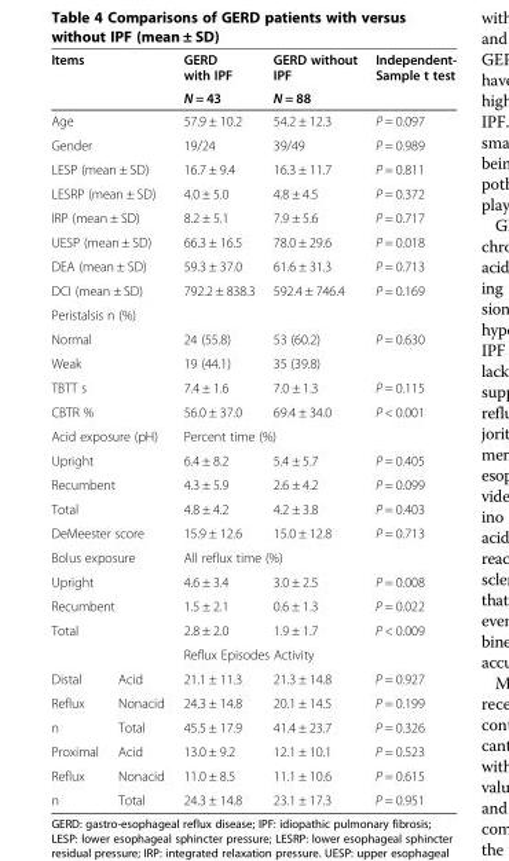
<table><thead><tr><td rowspan="2" colspan="2">Items</td><td rowspan="2">GERD with IPF N = 43</td><td rowspan="2">GERD without IPF N = 88</td><td rowspan="2">Independent- Sample t test</td></tr><tr></tr></thead><tbody><tr><td colspan="2">Age</td><td>57.9 ± 10.2</td><td>54.2 ± 12.3</td><td>P = 0.097</td></tr><tr><td colspan="2">Gender</td><td>19/24</td><td>39/49</td><td>P = 0.989</td></tr><tr><td colspan="2">LESP (mean ± SD)</td><td>16.7 ± 9.4</td><td>16.3 ± 11.7</td><td>P = 0.811</td></tr><tr><td colspan="2">LESRP (mean ± SD)</td><td>4.0 ± 5.0</td><td>4.8 ± 4.5</td><td>P = 0.372</td></tr><tr><td colspan="2">IRP (mean ± SD)</td><td>8.2 ± 5.1</td><td>7.9 ± 5.6</td><td>P = 0.717</td></tr><tr><td colspan="2">UESP (mean ± SD)</td><td>66.3 ± 16.5</td><td>78.0 ± 29.6</td><td>P = 0.018</td></tr><tr><td colspan="2">DEA (mean ± SD)</td><td>59.3 ± 37.0</td><td>61.6 ± 31.3</td><td>P = 0.713</td></tr><tr><td colspan="2">DCI (mean ± SD)</td><td>792.2 ± 838.3</td><td>592.4 ± 746.4</td><td>P = 0.169</td></tr><tr><td colspan="5">Peristalsis n (%)</td></tr><tr><td colspan="2">Normal</td><td>24 (55.8)</td><td>53 (60.2)</td><td>P = 0.630</td></tr><tr><td colspan="2">Weak</td><td>19 (44.1)</td><td>35 (39.8)</td><td></td></tr><tr><td colspan="2">TBTT s</td><td>7.4 ± 1.6</td><td>7.0 ± 1.3</td><td>P = 0.115</td></tr><tr><td colspan="2">CBTR %</td><td>56.0 ± 37.0</td><td>69.4 ± 34.0</td><td>P &lt; 0.001</td></tr><tr><td colspan="2">Acid exposure (pH)</td><td colspan="2">Percent time (%)</td><td></td></tr><tr><td colspan="2">Upright</td><td>6.4 ± 8.2</td><td>5.4 ± 5.7</td><td>P = 0.405</td></tr><tr><td colspan="2">Recumbent</td><td>4.3 ± 5.9</td><td>2.6 ± 4.2</td><td>P = 0.099</td></tr><tr><td colspan="2">Total</td><td>4.8 ± 4.2</td><td>4.2 ± 3.8</td><td>P = 0.403</td></tr><tr><td colspan="2">DeMeester score</td><td>15.9 ± 12.6</td><td>15.0 ± 12.8</td><td>P = 0.713</td></tr><tr><td colspan="2">Bolus exposure</td><td colspan="2">All reflux time (%)</td><td></td></tr><tr><td colspan="2">Upright</td><td>4.6 ± 3.4</td><td>3.0 ± 2.5</td><td>P = 0.008</td></tr><tr><td colspan="2">Recumbent</td><td>1.5 ± 2.1</td><td>0.6 ± 1.3</td><td>P = 0.022</td></tr><tr><td rowspan="2" colspan="2">Total</td><td>2.8 ± 2.0</td><td>1.9 ± 1.7</td><td>P &lt; 0.009</td></tr><tr><td colspan="2">Reflux Episodes Activity</td><td></td></tr><tr><td>Distal</td><td>Acid</td><td>21.1 ± 11.3</td><td>21.3 ± 14.8</td><td>P = 0.927</td></tr><tr><td>Reflux</td><td>Nonacid</td><td>24.3 ± 14.8</td><td>20.1 ± 14.5</td><td>P = 0.199</td></tr><tr><td>n</td><td>Total</td><td>45.5 ± 17.9</td><td>41.4 ± 23.7</td><td>P = 0.326</td></tr><tr><td>Proximal</td><td>Acid</td><td>13.0 ± 9.2</td><td>12.1 ± 10.1</td><td>P = 0.523</td></tr><tr><td>Reflux</td><td>Nonacid</td><td>11.0 ± 8.5</td><td>11.1 ± 10.6</td><td>P = 0.615</td></tr><tr><td>n</td><td>Total</td><td>24.3 ± 14.8</td><td>23.1 ± 17.3</td><td>P = 0.951</td></tr></tbody></table>